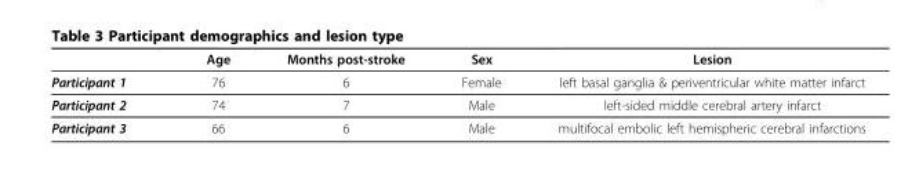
<table><thead><tr><td></td><td>Age</td><td>Months post-stroke</td><td>Sex</td><td>Lesion</td></tr></thead><tbody><tr><td>Participant 1</td><td>76</td><td>6</td><td>Female</td><td>left basal ganglia &amp; periventricular white matter infarct</td></tr><tr><td>Participant 2</td><td>74</td><td>7</td><td>Male</td><td>left-sided middle cerebral artery infarct</td></tr><tr><td>Participant 3</td><td>66</td><td>6</td><td>Male</td><td>multifocal embolic left hemispheric cerebral infarctions</td></tr></tbody></table>